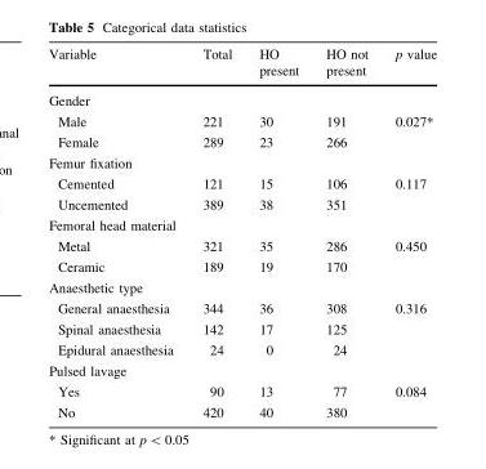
<table><thead><tr><td>Variable</td><td>Total</td><td>HO present</td><td>HO not present</td><td>p value</td></tr></thead><tbody><tr><td colspan="5">Gender</td></tr><tr><td>Male</td><td>221</td><td>30</td><td>191</td><td>0.027*</td></tr><tr><td>Female</td><td>289</td><td>23</td><td>266</td><td></td></tr><tr><td colspan="5">Femur fixation</td></tr><tr><td>Cemented</td><td>121</td><td>15</td><td>106</td><td>0.117</td></tr><tr><td>Uncemented</td><td>389</td><td>38</td><td>351</td><td></td></tr><tr><td colspan="5">Femoral head material</td></tr><tr><td>Metal</td><td>321</td><td>35</td><td>286</td><td>0.450</td></tr><tr><td>Ceramic</td><td>189</td><td>19</td><td>170</td><td></td></tr><tr><td colspan="5">Anaesthetic type</td></tr><tr><td>General anaesthesia</td><td>344</td><td>36</td><td>308</td><td>0.316</td></tr><tr><td>Spinal anaesthesia</td><td>142</td><td>17</td><td>125</td><td></td></tr><tr><td>Epidural anaesthesia</td><td>24</td><td>0</td><td>24</td><td></td></tr><tr><td colspan="5">Pulsed lavage</td></tr><tr><td>Yes</td><td>90</td><td>13</td><td>77</td><td>0.084</td></tr><tr><td>No</td><td>420</td><td>40</td><td>380</td><td></td></tr></tbody></table>